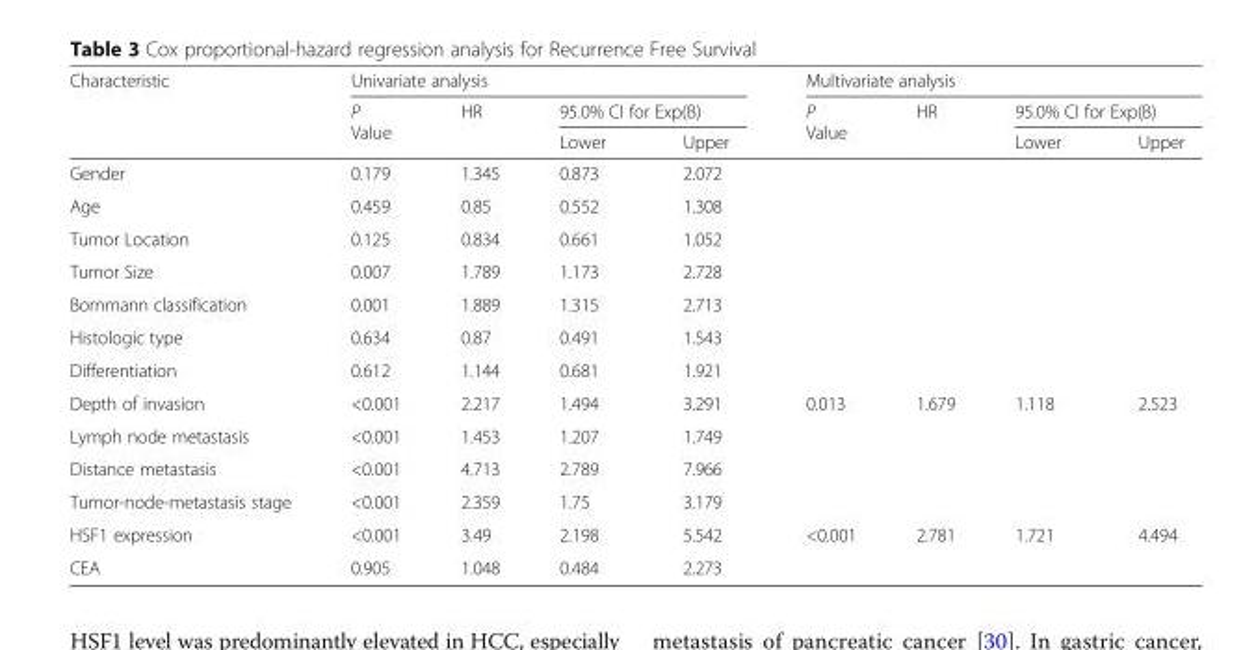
<table><thead><tr><td rowspan="3">Characteristic</td><td colspan="4">Univariate analysis</td><td colspan="4">Multivariate analysis</td></tr><tr><td rowspan="2">P Value</td><td rowspan="2">HR</td><td colspan="2">95.0% CI for Exp(B)</td><td rowspan="2">P Value</td><td rowspan="2">HR</td><td colspan="2">95.0% CI for Exp(B)</td></tr><tr><td>Lower</td><td>Upper</td><td>Lower</td><td>Upper</td></tr></thead><tbody><tr><td>Gender</td><td>0.179</td><td>1.345</td><td>0.873</td><td>2.072</td><td></td><td></td><td></td><td></td></tr><tr><td>Age</td><td>0.459</td><td>0.85</td><td>0.552</td><td>1.308</td><td></td><td></td><td></td><td></td></tr><tr><td>Tumor Location</td><td>0.125</td><td>0.834</td><td>0.661</td><td>1.052</td><td></td><td></td><td></td><td></td></tr><tr><td>Tumor Size</td><td>0.007</td><td>1.789</td><td>1.173</td><td>2.728</td><td></td><td></td><td></td><td></td></tr><tr><td>Bornmann classification</td><td>0.001</td><td>1.889</td><td>1.315</td><td>2.713</td><td></td><td></td><td></td><td></td></tr><tr><td>Histologic type</td><td>0.634</td><td>0.87</td><td>0.491</td><td>1.543</td><td></td><td></td><td></td><td></td></tr><tr><td>Differentiation</td><td>0.612</td><td>1.144</td><td>0.681</td><td>1.921</td><td></td><td></td><td></td><td></td></tr><tr><td>Depth of invasion</td><td>&lt;0.001</td><td>2.217</td><td>1.494</td><td>3.291</td><td>0.013</td><td>1.679</td><td>1.118</td><td>2.523</td></tr><tr><td>Lymph node metastasis</td><td>&lt;0.001</td><td>1.453</td><td>1.207</td><td>1.749</td><td></td><td></td><td></td><td></td></tr><tr><td>Distance metastasis</td><td>&lt;0.001</td><td>4.713</td><td>2.789</td><td>7.966</td><td></td><td></td><td></td><td></td></tr><tr><td>Tumor-node-metastasis stage</td><td>&lt;0.001</td><td>2.359</td><td>1.75</td><td>3.179</td><td></td><td></td><td></td><td></td></tr><tr><td>HSF1 expression</td><td>&lt;0.001</td><td>3.49</td><td>2.198</td><td>5.542</td><td>&lt;0.001</td><td>2.781</td><td>1.721</td><td>4.494</td></tr><tr><td>CEA</td><td>0.905</td><td>1.048</td><td>0.484</td><td>2.273</td><td></td><td></td><td></td><td></td></tr></tbody></table>